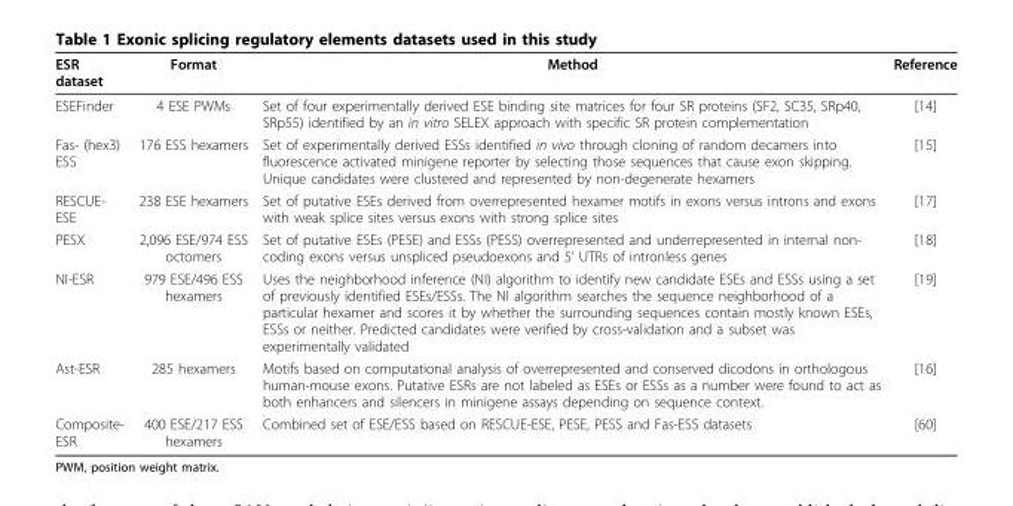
<table><thead><tr><td>ESR dataset</td><td>Format</td><td>Method</td><td>Reference</td></tr></thead><tbody><tr><td>ESEFinder</td><td>4 ESE PWMs</td><td>Set of four experimentally derived ESE binding site matrices for four SR proteins (SF2, SC35, SRp40, SRp55) identified by an in vitro SELEX approach with specific SR protein complementation</td><td>[14]</td></tr><tr><td>Fas- (hex3) ESS</td><td>176 ESS hexamers</td><td>Set of experimentally derived ESSs identified in vivo through cloning of random decamers into fluorescence activated minigene reporter by selecting those sequences that cause exon skipping. Unique candidates were clustered and represented by non-degenerate hexamers</td><td>[15]</td></tr><tr><td>RESCUE- ESE</td><td>238 ESE hexamers</td><td>Set of putative ESEs derived from overrepresented hexamer motifs in exons versus introns and exons with weak splice sites versus exons with strong splice sites</td><td>[17]</td></tr><tr><td>PESX</td><td>2,096 ESE/974 ESS octomers</td><td>Set of putative ESEs (PESE) and ESSs (PESS) overrepresented and underrepresented in internal non- coding exons versus unspliced pseudoexons and 5’ UTRs of intronless genes</td><td>[18]</td></tr><tr><td>NI-ESR</td><td>979 ESE/496 ESS hexamers</td><td>Uses the neighborhood inference (NI) algorithm to identify new candidate ESEs and ESSs using a set of previously identified ESEs/ESSs. The NI algorithm searches the sequence neighborhood of a particular hexamer and scores it by whether the surrounding sequences contain mostly known ESEs, ESSs or neither. Predicted candidates were verified by cross-validation and a subset was experimentally validated</td><td>[19]</td></tr><tr><td>Ast-ESR</td><td>285 hexamers</td><td>Motifs based on computational analysis of overrepresented and conserved dicodons in orthologous human-mouse exons. Putative ESRs are not labeled as ESEs or ESSs as a number were found to act as both enhancers and silencers in minigene assays depending on sequence context.</td><td>[16]</td></tr><tr><td>Composite- ESR</td><td>400 ESE/217 ESS hexamers</td><td>Combined set of ESE/ESS based on RESCUE-ESE, PESE, PESS and Fas-ESS datasets</td><td>[60]</td></tr></tbody></table>